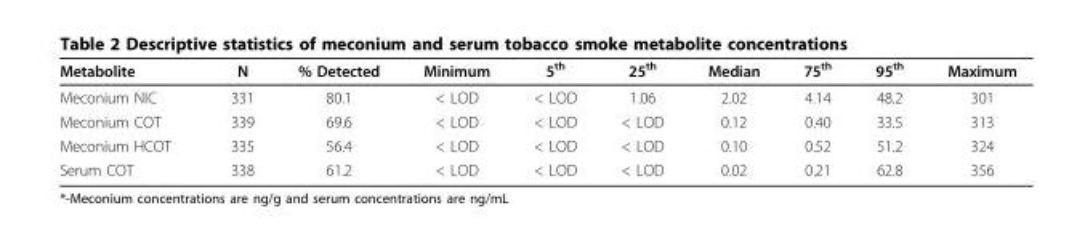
<table><thead><tr><td>Metabolite</td><td>N</td><td>% Detected</td><td>Minimum</td><td>5<sup>th</sup></td><td>25<sup>th</sup></td><td>Median</td><td>75<sup>th</sup></td><td>95<sup>th</sup></td><td>Maximum</td></tr></thead><tbody><tr><td>Meconium NIC</td><td>331</td><td>80.1</td><td>&lt; LOD</td><td>&lt; LOD</td><td>1.06</td><td>2.02</td><td>4.14</td><td>48.2</td><td>301</td></tr><tr><td>Meconium COT</td><td>339</td><td>69.6</td><td>&lt; LOD</td><td>&lt; LOD</td><td>&lt; LOD</td><td>0.12</td><td>0.40</td><td>33.5</td><td>313</td></tr><tr><td>Meconium HCOT</td><td>335</td><td>56.4</td><td>&lt; LOD</td><td>&lt; LOD</td><td>&lt; LOD</td><td>0.10</td><td>0.52</td><td>51.2</td><td>324</td></tr><tr><td>Serum COT</td><td>338</td><td>61.2</td><td>&lt; LOD</td><td>&lt; LOD</td><td>&lt; LOD</td><td>0.02</td><td>0.21</td><td>62.8</td><td>356</td></tr></tbody></table>